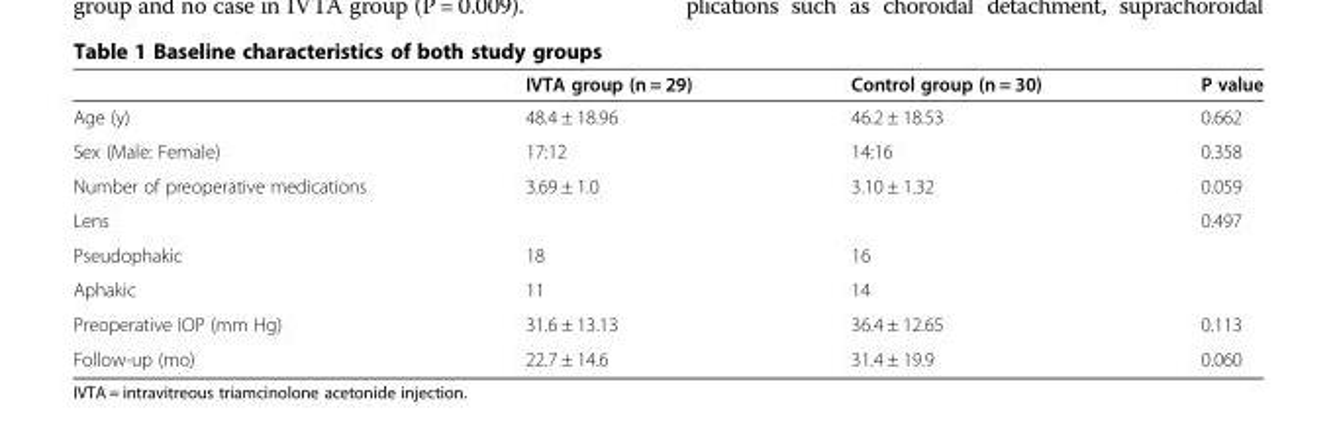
<table><thead><tr><td></td><td>IVTA group (n = 29)</td><td>Control group (n = 30)</td><td>P value</td></tr></thead><tbody><tr><td>Age (y)</td><td>48.4 ± 18.96</td><td>46.2 ± 18.53</td><td>0.662</td></tr><tr><td>Sex (Male: Female)</td><td>17:12</td><td>14:16</td><td>0.358</td></tr><tr><td>Number of preoperative medications</td><td>3.69 ± 1.0</td><td>3.10 ± 1.32</td><td>0.059</td></tr><tr><td>Lens</td><td></td><td></td><td>0.497</td></tr><tr><td>Pseudophakic</td><td>18</td><td>16</td><td></td></tr><tr><td>Aphakic</td><td>11</td><td>14</td><td></td></tr><tr><td>Preoperative IOP (mm Hg)</td><td>31.6 ± 13.13</td><td>36.4 ± 12.65</td><td>0.113</td></tr><tr><td>Follow-up (mo)</td><td>22.7 ± 14.6</td><td>31.4 ± 19.9</td><td>0.060</td></tr></tbody></table>